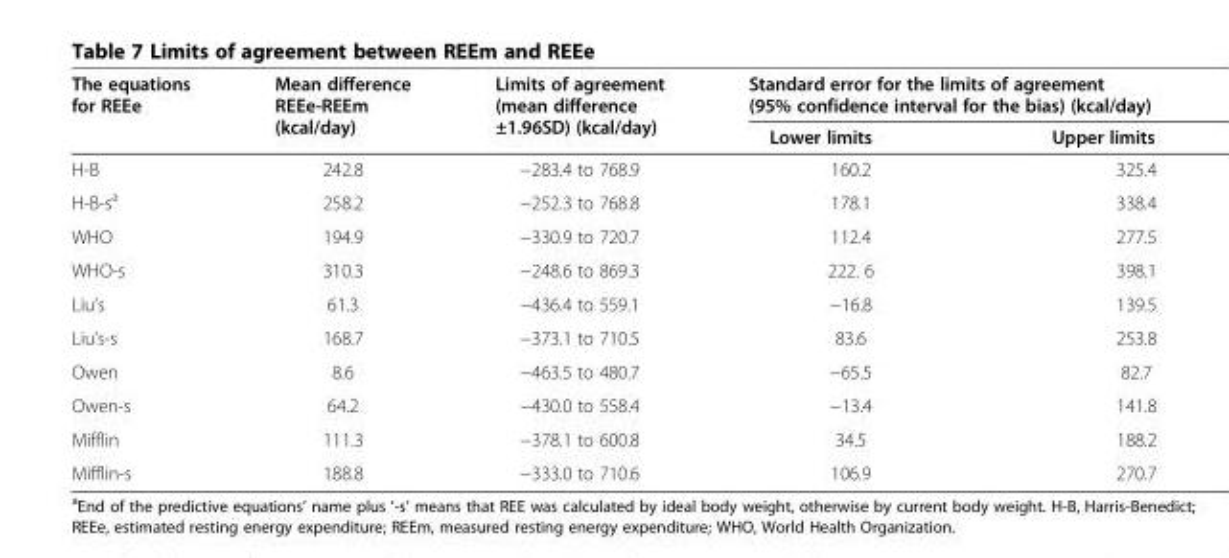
<table><thead><tr><td rowspan="2">The equations for REEe</td><td rowspan="2">Mean difference REEe-REEm (kcal/day)</td><td rowspan="2">Limits of agreement (mean difference ±1.96SD) (kcal/day)</td><td colspan="2">Standard error for the limits of agreement (95% confidence interval for the bias) (kcal/day)</td></tr><tr><td>Lower limits</td><td>Upper limits</td></tr></thead><tbody><tr><td>H-B</td><td>242.8</td><td>−283.4 to 768.9</td><td>160.2</td><td>325.4</td></tr><tr><td>H-B-s<sup>a</sup></td><td>258.2</td><td>−252.3 to 768.8</td><td>178.1</td><td>338.4</td></tr><tr><td>WHO</td><td>194.9</td><td>−330.9 to 720.7</td><td>112.4</td><td>277.5</td></tr><tr><td>WHO-s</td><td>310.3</td><td>−248.6 to 869.3</td><td>222. 6</td><td>398.1</td></tr><tr><td>Liu’s</td><td>61.3</td><td>−436.4 to 559.1</td><td>−16.8</td><td>139.5</td></tr><tr><td>Liu’s-s</td><td>168.7</td><td>−373.1 to 710.5</td><td>83.6</td><td>253.8</td></tr><tr><td>Owen</td><td>8.6</td><td>−463.5 to 480.7</td><td>−65.5</td><td>82.7</td></tr><tr><td>Owen-s</td><td>64.2</td><td>−430.0 to 558.4</td><td>−13.4</td><td>141.8</td></tr><tr><td>Mifflin</td><td>111.3</td><td>−378.1 to 600.8</td><td>34.5</td><td>188.2</td></tr><tr><td>Mifflin-s</td><td>188.8</td><td>−333.0 to 710.6</td><td>106.9</td><td>270.7</td></tr></tbody></table>